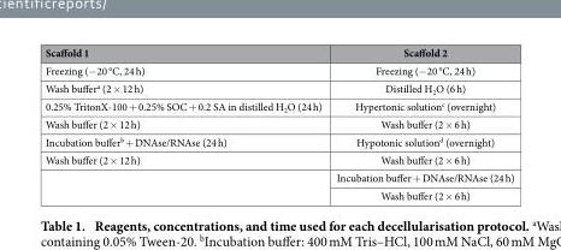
<table><thead><tr><td>Scaffold 1</td><td>Scaffold 2</td></tr></thead><tbody><tr><td>Freezing (− 20 °C, 24 h)</td><td>Freezing (− 20 °C, 24 h)</td></tr><tr><td>Wash buffer<sup>a</sup> (2 × 12 h)</td><td>Distilled H<sub>2</sub>O (6 h)</td></tr><tr><td>0.25% TritonX-100 + 0.25% SOC + 0.2 SA in distilled H<sub>2</sub>O (24 h)</td><td>Hypertonic solution<sup>c</sup> (overnight)</td></tr><tr><td>Wash buffer (2 × 12 h)</td><td>Wash buffer (2 × 6 h)</td></tr><tr><td>Incubation buffer<sup>b</sup> + DNAse/RNAse (24 h)</td><td>Hypotonic solution<sup>d</sup> (overnight)</td></tr><tr><td rowspan="3">Wash buffer (2 × 12 h)</td><td>Wash buffer (2 × 6 h)</td></tr><tr><td>Incubation buffer + DNAse/RNAse (24 h)</td></tr><tr><td>Wash buffer (2 × 6 h)</td></tr></tbody></table>